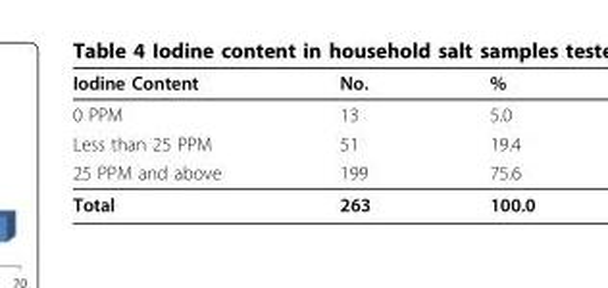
<table><thead><tr><td>Iodine Content</td><td>No.</td><td>%</td></tr></thead><tbody><tr><td>0 PPM</td><td>13</td><td>5.0</td></tr><tr><td>Less than 25 PPM</td><td>51</td><td>19.4</td></tr><tr><td>25 PPM and above</td><td>199</td><td>75.6</td></tr><tr><td>Total</td><td>263</td><td>100.0</td></tr></tbody></table>